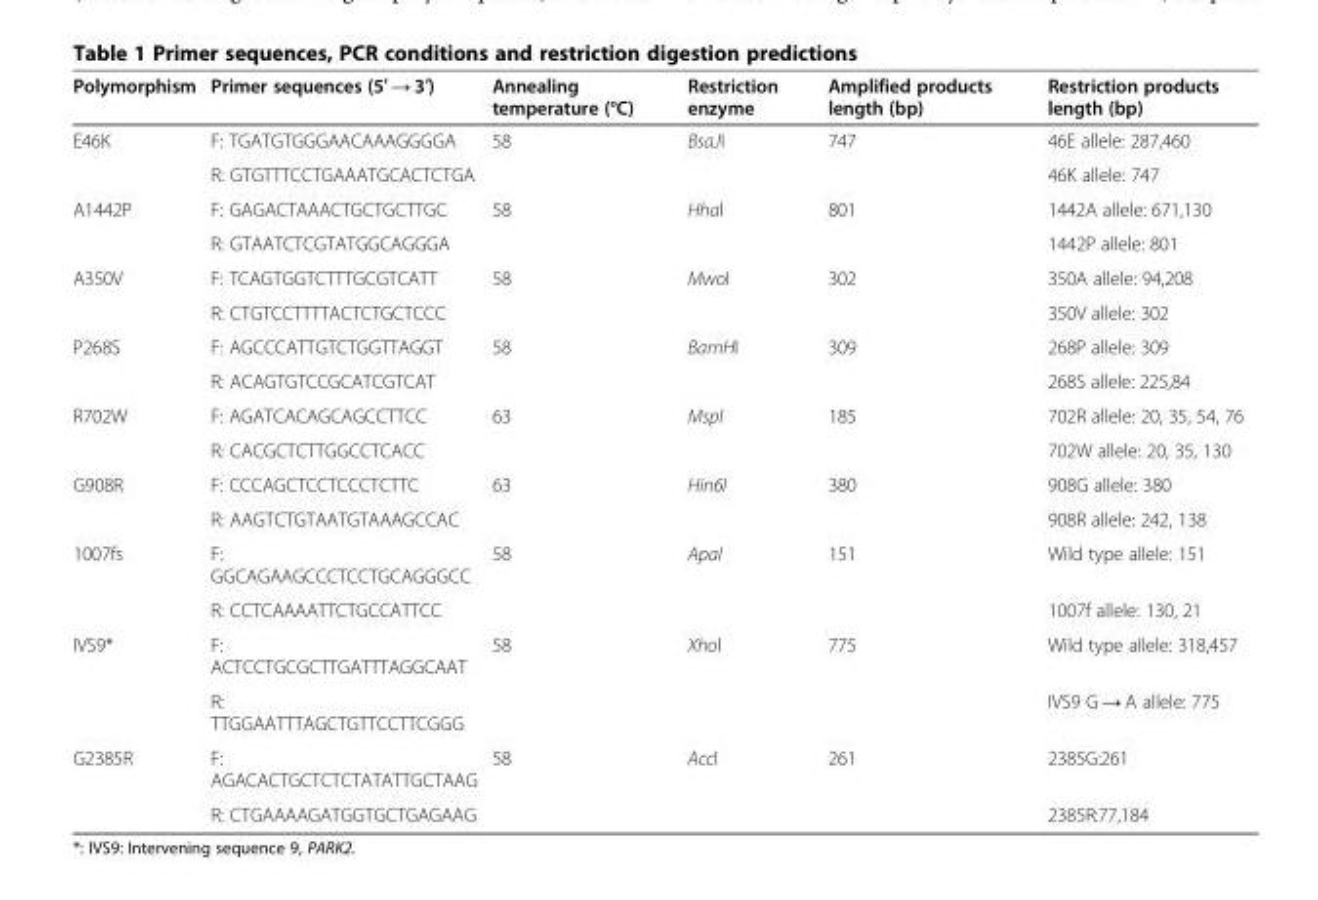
<table><thead><tr><td>Polymorphism</td><td>Primer sequences (5′ → 3′)</td><td>Annealing temperature (°C)</td><td>Restriction enzyme</td><td>Amplified products length (bp)</td><td>Restriction products length (bp)</td></tr></thead><tbody><tr><td rowspan="2">E46K</td><td>F: TGATGTGGGAACAAAGGGGA</td><td>58</td><td>BsaJI</td><td>747</td><td>46E allele: 287,460</td></tr><tr><td>R: GTGTTTCCTGAAATGCACTCTGA</td><td></td><td></td><td></td><td>46K allele: 747</td></tr><tr><td rowspan="2">A1442P</td><td>F: GAGACTAAACTGCTGCTTGC</td><td>58</td><td>Hhal</td><td>801</td><td>1442A allele: 671,130</td></tr><tr><td>R: GTAATCTCGTATGGCAGGGA</td><td></td><td></td><td></td><td>1442P allele: 801</td></tr><tr><td rowspan="2">A350V</td><td>F: TCAGTGGTCTTTGCGTCATT</td><td>58</td><td>MwoI</td><td>302</td><td>350A allele: 94,208</td></tr><tr><td>R: CTGTCCTTTTACTCTGCTCCC</td><td></td><td></td><td></td><td>350V allele: 302</td></tr><tr><td rowspan="2">P268S</td><td>F: AGCCCATTGTCTGGTTAGGT</td><td>58</td><td>BamHI</td><td>309</td><td>268P allele: 309</td></tr><tr><td>R: ACAGTGTCCGCATCGTCAT</td><td></td><td></td><td></td><td>268S allele: 225,84</td></tr><tr><td rowspan="2">R702W</td><td>F: AGATCACAGCAGCCTTCC</td><td>63</td><td>MspI</td><td>185</td><td>702R allele: 20, 35, 54, 76</td></tr><tr><td>R: CACGCTCTTGGCCTCACC</td><td></td><td></td><td></td><td>702W allele: 20, 35, 130</td></tr><tr><td rowspan="2">G908R</td><td>F: CCCAGCTCCTCCCTCTTC</td><td>63</td><td>Hin6I</td><td>380</td><td>908G allele: 380</td></tr><tr><td>R: AAGTCTGTAATGTAAAGCCAC</td><td></td><td></td><td></td><td>908R allele: 242, 138</td></tr><tr><td rowspan="2">1007fs</td><td>F: GGCAGAAGCCCTCCTGCAGGGCC</td><td>58</td><td>ApaI</td><td>151</td><td>Wild type allele: 151</td></tr><tr><td>R: CCTCAAAATTCTGCCATTCC</td><td></td><td></td><td></td><td>1007f allele: 130, 21</td></tr><tr><td rowspan="2">IVS9*</td><td>F: ACTCCTGCGCTTGATTTAGGCAAT</td><td>58</td><td>Xhol</td><td>775</td><td>Wild type allele: 318,457</td></tr><tr><td>R: TTGGAATTTAGCTGTTCCTTCGGG</td><td></td><td></td><td></td><td>IVS9 G → A allele: 775</td></tr><tr><td rowspan="2">G2385R</td><td>F: AGACACTGCTCTCTATATTGCTAAG</td><td>58</td><td>AccI</td><td>261</td><td>2385G:261</td></tr><tr><td>R: CTGAAAAGATGGTGCTGAGAAG</td><td></td><td></td><td></td><td>2385R:77,184</td></tr></tbody></table>